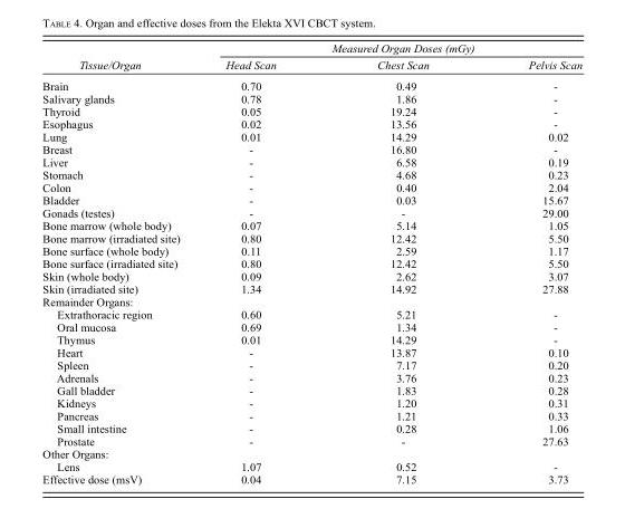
<table><thead><tr><td rowspan="2">Tissue/Organ</td><td colspan="3">Measured Organ Doses (mGy)</td></tr><tr><td>Head Scan</td><td>Chest Scan</td><td>Pelvis Scan</td></tr></thead><tbody><tr><td>Brain</td><td>0.70</td><td>0.49</td><td>-</td></tr><tr><td>Salivary glands</td><td>0.78</td><td>1.86</td><td>-</td></tr><tr><td>Thyroid</td><td>0.05</td><td>19.24</td><td>-</td></tr><tr><td>Esophagus</td><td>0.02</td><td>13.56</td><td>-</td></tr><tr><td>Lung</td><td>0.01</td><td>14.29</td><td>0.02</td></tr><tr><td>Breast</td><td>-</td><td>16.80</td><td>-</td></tr><tr><td>Liver</td><td>-</td><td>6.58</td><td>0.19</td></tr><tr><td>Stomach</td><td>-</td><td>4.68</td><td>0.23</td></tr><tr><td>Colon</td><td>-</td><td>0.40</td><td>2.04</td></tr><tr><td>Bladder</td><td>-</td><td>0.03</td><td>15.67</td></tr><tr><td>Gonads (testes)</td><td>-</td><td>-</td><td>29.00</td></tr><tr><td>Bone marrow (whole body)</td><td>0.07</td><td>5.14</td><td>1.05</td></tr><tr><td>Bone marrow (irradiated site)</td><td>0.80</td><td>12.42</td><td>5.50</td></tr><tr><td>Bone surface (whole body)</td><td>0.11</td><td>2.59</td><td>1.17</td></tr><tr><td>Bone surface (irradiated site)</td><td>0.80</td><td>12.42</td><td>5.50</td></tr><tr><td>Skin (whole body)</td><td>0.09</td><td>2.62</td><td>3.07</td></tr><tr><td>Skin (irradiated site)</td><td>1.34</td><td>14.92</td><td>27.88</td></tr><tr><td colspan="4">Remainder Organs:</td></tr><tr><td>Extrathoracic region</td><td>0.60</td><td>5.21</td><td>-</td></tr><tr><td>Oral mucosa</td><td>0.69</td><td>1.34</td><td>-</td></tr><tr><td>Thymus</td><td>0.01</td><td>14.29</td><td>-</td></tr><tr><td>Heart</td><td>-</td><td>13.87</td><td>0.10</td></tr><tr><td>Spleen</td><td>-</td><td>7.17</td><td>0.20</td></tr><tr><td>Adrenals</td><td>-</td><td>3.76</td><td>0.23</td></tr><tr><td>Gall bladder</td><td>-</td><td>1.83</td><td>0.28</td></tr><tr><td>Kidneys</td><td>-</td><td>1.20</td><td>0.31</td></tr><tr><td>Pancreas</td><td>-</td><td>1.21</td><td>0.33</td></tr><tr><td>Small intestine</td><td>-</td><td>0.28</td><td>1.06</td></tr><tr><td>Prostate</td><td>-</td><td>-</td><td>27.63</td></tr><tr><td colspan="4">Other Organs:</td></tr><tr><td>Lens</td><td>1.07</td><td>0.52</td><td>-</td></tr><tr><td>Effective dose (msV)</td><td>0.04</td><td>7.15</td><td>3.73</td></tr></tbody></table>